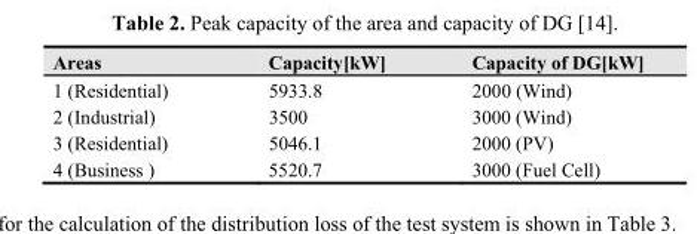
<table><thead><tr><td>Areas</td><td>Capacity[kW]</td><td>Capacity of DG[kW]</td></tr></thead><tbody><tr><td>1 (Residential)</td><td>5933.8</td><td>2000 (Wind)</td></tr><tr><td>2 (Industrial)</td><td>3500</td><td>3000 (Wind)</td></tr><tr><td>3 (Residential)</td><td>5046.1</td><td>2000 (PV)</td></tr><tr><td>4 (Business )</td><td>5520.7</td><td>3000 (Fuel Cell)</td></tr></tbody></table>